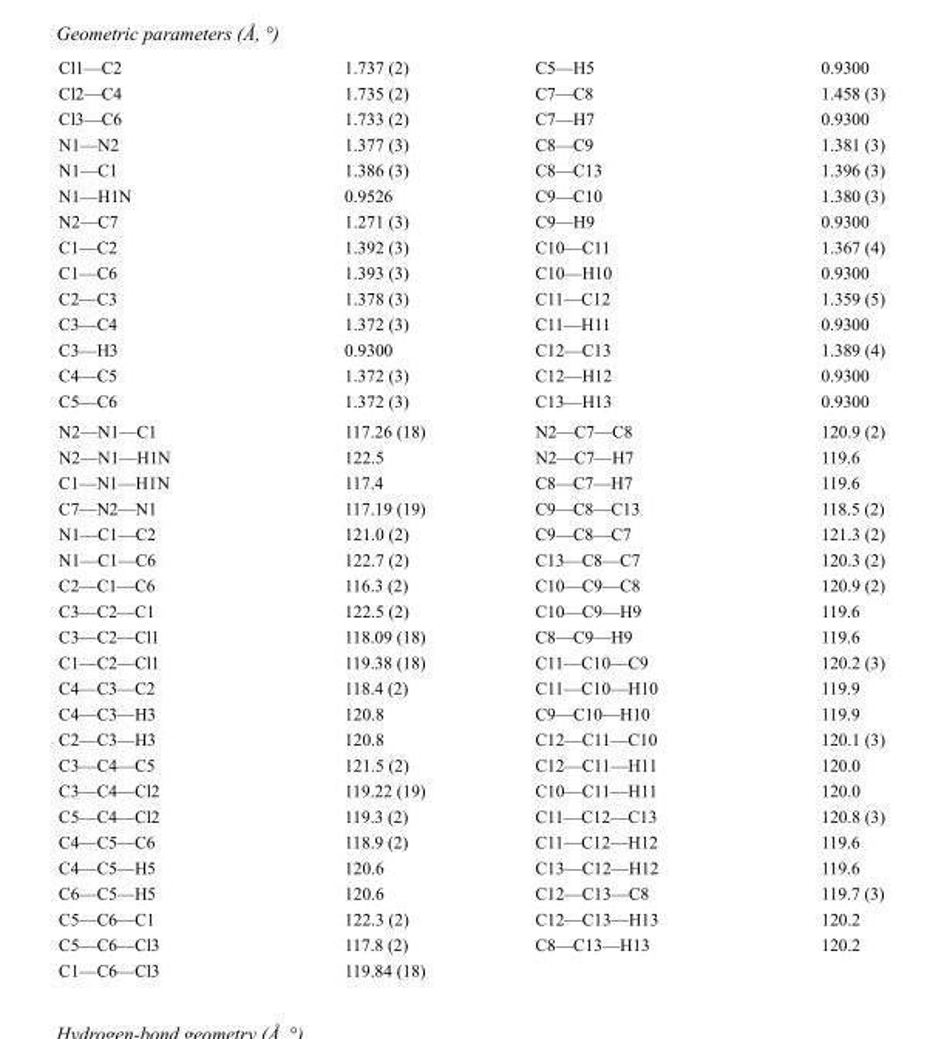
<table><tbody><tr><td>Cl1—C2</td><td>1.737 (2)</td><td>C5—H5</td><td>0.9300</td></tr><tr><td>Cl2—C4</td><td>1.735 (2)</td><td>C7—C8</td><td>1.458 (3)</td></tr><tr><td>Cl3—C6</td><td>1.733 (2)</td><td>C7—H7</td><td>0.9300</td></tr><tr><td>N1—N2</td><td>1.377 (3)</td><td>C8—C9</td><td>1.381 (3)</td></tr><tr><td>N1—C1</td><td>1.386 (3)</td><td>C8—C13</td><td>1.396 (3)</td></tr><tr><td>N1—H1N</td><td>0.9526</td><td>C9—C10</td><td>1.380 (3)</td></tr><tr><td>N2—C7</td><td>1.271 (3)</td><td>C9—H9</td><td>0.9300</td></tr><tr><td>C1—C2</td><td>1.392 (3)</td><td>C10—C11</td><td>1.367 (4)</td></tr><tr><td>C1—C6</td><td>1.393 (3)</td><td>C10—H10</td><td>0.9300</td></tr><tr><td>C2—C3</td><td>1.378 (3)</td><td>C11—C12</td><td>1.359 (5)</td></tr><tr><td>C3—C4</td><td>1.372 (3)</td><td>C11—H11</td><td>0.9300</td></tr><tr><td>C3—H3</td><td>0.9300</td><td>C12—C13</td><td>1.389 (4)</td></tr><tr><td>C4—C5</td><td>1.372 (3)</td><td>C12—H12</td><td>0.9300</td></tr><tr><td>C5—C6</td><td>1.372 (3)</td><td>C13—H13</td><td>0.9300</td></tr><tr><td>N2—N1—C1</td><td>117.26 (18)</td><td>N2—C7—C8</td><td>120.9 (2)</td></tr><tr><td>N2—N1—H1N</td><td>122.5</td><td>N2—C7—H7</td><td>119.6</td></tr><tr><td>C1—N1—H1N</td><td>117.4</td><td>C8—C7—H7</td><td>119.6</td></tr><tr><td>C7—N2—N1</td><td>117.19 (19)</td><td>C9—C8—C13</td><td>118.5 (2)</td></tr><tr><td>N1—C1—C2</td><td>121.0 (2)</td><td>C9—C8—C7</td><td>121.3 (2)</td></tr><tr><td>N1—C1—C6</td><td>122.7 (2)</td><td>C13—C8—C7</td><td>120.3 (2)</td></tr><tr><td>C2—C1—C6</td><td>116.3 (2)</td><td>C10—C9—C8</td><td>120.9 (2)</td></tr><tr><td>C3—C2—C1</td><td>122.5 (2)</td><td>C10—C9—H9</td><td>119.6</td></tr><tr><td>C3—C2—Cl1</td><td>118.09 (18)</td><td>C8—C9—H9</td><td>119.6</td></tr><tr><td>C1—C2—Cl1</td><td>119.38 (18)</td><td>C11—C10—C9</td><td>120.2 (3)</td></tr><tr><td>C4—C3—C2</td><td>118.4 (2)</td><td>C11—C10—H10</td><td>119.9</td></tr><tr><td>C4—C3—H3</td><td>120.8</td><td>C9—C10—H10</td><td>119.9</td></tr><tr><td>C2—C3—H3</td><td>120.8</td><td>C12—C11—C10</td><td>120.1 (3)</td></tr><tr><td>C3—C4—C5</td><td>121.5 (2)</td><td>C12—C11—H11</td><td>120.0</td></tr><tr><td>C3—C4—Cl2</td><td>119.22 (19)</td><td>C10—C11—H11</td><td>120.0</td></tr><tr><td>C5—C4—Cl2</td><td>119.3 (2)</td><td>C11—C12—C13</td><td>120.8 (3)</td></tr><tr><td>C4—C5—C6</td><td>118.9 (2)</td><td>C11—C12—H12</td><td>119.6</td></tr><tr><td>C4—C5—H5</td><td>120.6</td><td>C13—C12—H12</td><td>119.6</td></tr><tr><td>C6—C5—H5</td><td>120.6</td><td>C12—C13—C8</td><td>119.7 (3)</td></tr><tr><td>C5—C6—C1</td><td>122.3 (2)</td><td>C12—C13—H13</td><td>120.2</td></tr><tr><td>C5—C6—Cl3</td><td>117.8 (2)</td><td>C8—C13—H13</td><td>120.2</td></tr><tr><td>C1—C6—Cl3</td><td>119.84 (18)</td><td></td><td></td></tr></tbody></table>